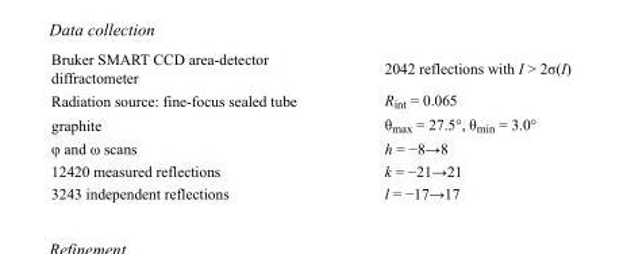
<table><tbody><tr><td>Bruker SMART CCD area-detector diffractometer</td><td>2042 reflections with I &gt; 2σ(I)</td></tr><tr><td>Radiation source: fine-focus sealed tube</td><td>R<sub>int</sub> = 0.065</td></tr><tr><td>graphite</td><td>θ<sub>max</sub> = 27.5°, θ<sub>min</sub> = 3.0°</td></tr><tr><td>φ and ω scans</td><td>h = −8→8</td></tr><tr><td>12420 measured reflections</td><td>k = −21→21</td></tr><tr><td>3243 independent reflections</td><td>l = −17→17</td></tr></tbody></table>